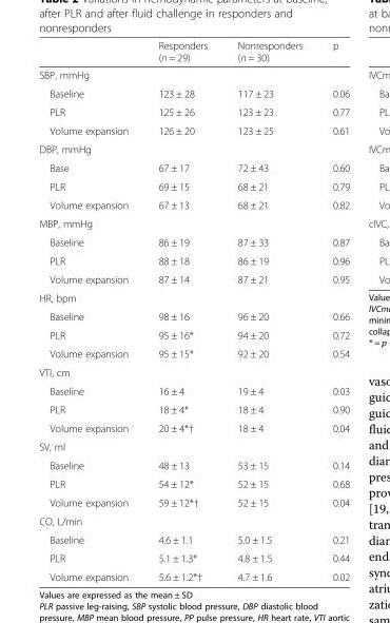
<table><thead><tr><td></td><td>Responders (n = 29)</td><td>Nonresponders (n = 30)</td><td>p</td></tr></thead><tbody><tr><td colspan="4">SBP, mmHg</td></tr><tr><td>Baseline</td><td>123 ± 28</td><td>117 ± 23</td><td>0.06</td></tr><tr><td>PLR</td><td>125 ± 26</td><td>123 ± 23</td><td>0.77</td></tr><tr><td>Volume expansion</td><td>126 ± 20</td><td>123 ± 25</td><td>0.61</td></tr><tr><td colspan="4">DBP, mmHg</td></tr><tr><td>Base</td><td>67 ± 17</td><td>72 ± 43</td><td>0.60</td></tr><tr><td>PLR</td><td>69 ± 15</td><td>68 ± 21</td><td>0.79</td></tr><tr><td>Volume expansion</td><td>67 ± 13</td><td>68 ± 21</td><td>0.82</td></tr><tr><td colspan="4">MBP, mmHg</td></tr><tr><td>Baseline</td><td>86 ± 19</td><td>87 ± 33</td><td>0.87</td></tr><tr><td>PLR</td><td>88 ± 18</td><td>86 ± 19</td><td>0.96</td></tr><tr><td>Volume expansion</td><td>87 ± 14</td><td>87 ± 21</td><td>0.95</td></tr><tr><td colspan="4">HR, bpm</td></tr><tr><td>Baseline</td><td>98 ± 16</td><td>96 ± 20</td><td>0.66</td></tr><tr><td>PLR</td><td>95 ± 16*</td><td>94 ± 20</td><td>0.72</td></tr><tr><td>Volume expansion</td><td>95 ± 15*</td><td>92 ± 20</td><td>0.54</td></tr><tr><td colspan="4">VTI, cm</td></tr><tr><td>Baseline</td><td>16 ± 4</td><td>19 ± 4</td><td>0.03</td></tr><tr><td>PLR</td><td>18 ± 4*</td><td>18 ± 4</td><td>0.90</td></tr><tr><td>Volume expansion</td><td>20 ± 4*†</td><td>18 ± 4</td><td>0.04</td></tr><tr><td colspan="4">SV, ml</td></tr><tr><td>Baseline</td><td>48 ± 13</td><td>53 ± 15</td><td>0.14</td></tr><tr><td>PLR</td><td>54 ± 12*</td><td>52 ± 15</td><td>0.68</td></tr><tr><td>Volume expansion</td><td>59 ± 12*†</td><td>52 ± 15</td><td>0.04</td></tr><tr><td colspan="4">CO, L/min</td></tr><tr><td>Baseline</td><td>4.6 ± 1.1</td><td>5.0 ± 1.5</td><td>0.21</td></tr><tr><td>PLR</td><td>5.1 ± 1.3*</td><td>4.8 ± 1.5</td><td>0.44</td></tr><tr><td>Volume expansion</td><td>5.6 ± 1.2*†</td><td>4.7 ± 1.6</td><td>0.02</td></tr></tbody></table>